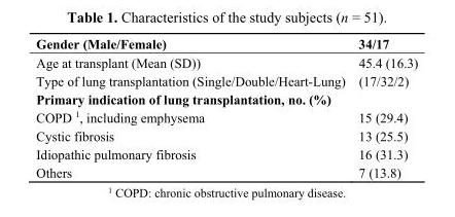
<table><thead><tr><td>Gender (Male/Female)</td><td>34/17</td></tr></thead><tbody><tr><td>Age at transplant (Mean (SD))</td><td>45.4 (16.3)</td></tr><tr><td>Type of lung transplantation (Single/Double/Heart-Lung)</td><td>(17/32/2)</td></tr><tr><td colspan="2">Primary indication of lung transplantation, no. (%)</td></tr><tr><td>COPD <sup>1</sup>, including emphysema</td><td>15 (29.4)</td></tr><tr><td>Cystic fibrosis</td><td>13 (25.5)</td></tr><tr><td>Idiopathic pulmonary fibrosis</td><td>16 (31.3)</td></tr><tr><td>Others</td><td>7 (13.8)</td></tr></tbody></table>